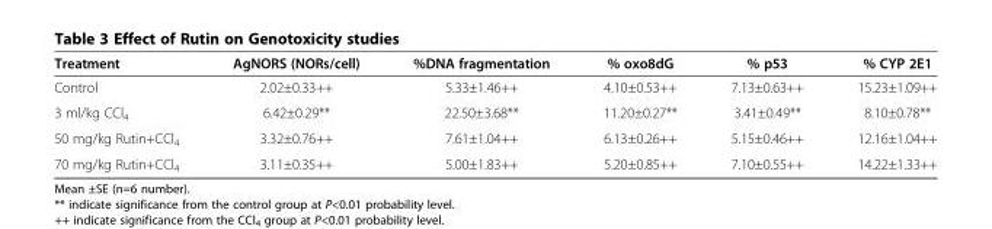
<table><thead><tr><td>Treatment</td><td>AgNORS (NORs/cell)</td><td>%DNA fragmentation</td><td>% oxo8dG</td><td>% p53</td><td>% CYP 2E1</td></tr></thead><tbody><tr><td>Control</td><td>2.02±0.33++</td><td>5.33±1.46++</td><td>4.10±0.53++</td><td>7.13±0.63++</td><td>15.23±1.09++</td></tr><tr><td>3 ml/kg CCl<sub>4</sub></td><td>6.42±0.29**</td><td>22.50±3.68**</td><td>11.20±0.27**</td><td>3.41±0.49**</td><td>8.10±0.78**</td></tr><tr><td>50 mg/kg Rutin+CCl<sub>4</sub></td><td>3.32±0.76++</td><td>7.61±1.04++</td><td>6.13±0.26++</td><td>5.15±0.46++</td><td>12.16±1.04++</td></tr><tr><td>70 mg/kg Rutin+CCl<sub>4</sub></td><td>3.11±0.35++</td><td>5.00±1.83++</td><td>5.20±0.85++</td><td>7.10±0.55++</td><td>14.22±1.33++</td></tr></tbody></table>